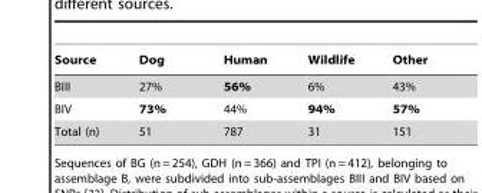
<table><thead><tr><td>Source</td><td>Dog</td><td>Human</td><td>Wildlife</td><td>Other</td></tr></thead><tbody><tr><td>BIII</td><td>27%</td><td>56%</td><td>6%</td><td>43%</td></tr><tr><td>BIV</td><td>73%</td><td>44%</td><td>94%</td><td>57%</td></tr><tr><td>Total (n)</td><td>51</td><td>787</td><td>31</td><td>151</td></tr></tbody></table>